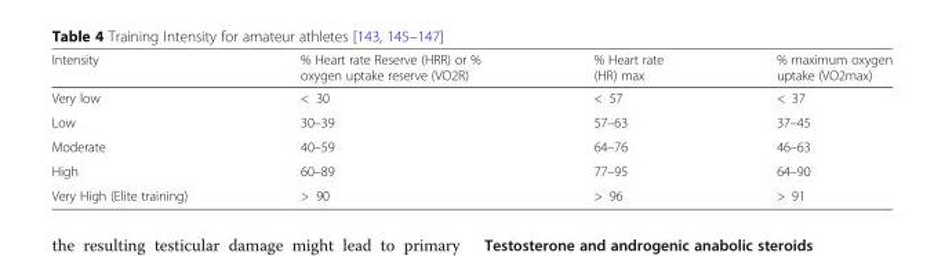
<table><thead><tr><td>Intensity</td><td>% Heart rate Reserve (HRR) or % oxygen uptake reserve (VO2R)</td><td>% Heart rate (HR) max</td><td>% maximum oxygen uptake (VO2max)</td></tr></thead><tbody><tr><td>Very low</td><td>&lt; 30</td><td>&lt; 57</td><td>&lt; 37</td></tr><tr><td>Low</td><td>30–39</td><td>57–63</td><td>37–45</td></tr><tr><td>Moderate</td><td>40–59</td><td>64–76</td><td>46–63</td></tr><tr><td>High</td><td>60–89</td><td>77–95</td><td>64–90</td></tr><tr><td>Very High (Elite training)</td><td>&gt; 90</td><td>&gt; 96</td><td>&gt; 91</td></tr></tbody></table>